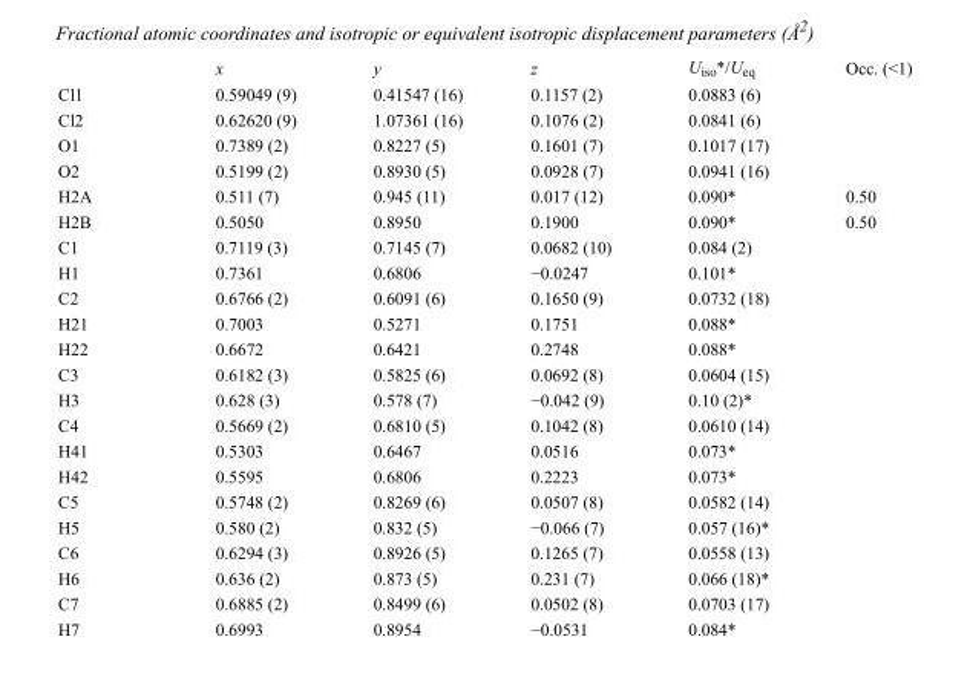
<table><thead><tr><td></td><td>x</td><td>y</td><td>z</td><td>U<sub>iso</sub>*/U<sub>eq</sub></td><td>Occ. (&lt;1)</td></tr></thead><tbody><tr><td>Cl1</td><td>0.59049 (9)</td><td>0.41547 (16)</td><td>0.1157 (2)</td><td>0.0883 (6)</td><td></td></tr><tr><td>Cl2</td><td>0.62620 (9)</td><td>1.07361 (16)</td><td>0.1076 (2)</td><td>0.0841 (6)</td><td></td></tr><tr><td>O1</td><td>0.7389 (2)</td><td>0.8227 (5)</td><td>0.1601 (7)</td><td>0.1017 (17)</td><td></td></tr><tr><td>O2</td><td>0.5199 (2)</td><td>0.8930 (5)</td><td>0.0928 (7)</td><td>0.0941 (16)</td><td></td></tr><tr><td>H2A</td><td>0.511 (7)</td><td>0.945 (11)</td><td>0.017 (12)</td><td>0.090*</td><td>0.50</td></tr><tr><td>H2B</td><td>0.5050</td><td>0.8950</td><td>0.1900</td><td>0.090*</td><td>0.50</td></tr><tr><td>C1</td><td>0.7119 (3)</td><td>0.7145 (7)</td><td>0.0682 (10)</td><td>0.084 (2)</td><td></td></tr><tr><td>H1</td><td>0.7361</td><td>0.6806</td><td>−0.0247</td><td>0.101*</td><td></td></tr><tr><td>C2</td><td>0.6766 (2)</td><td>0.6091 (6)</td><td>0.1650 (9)</td><td>0.0732 (18)</td><td></td></tr><tr><td>H21</td><td>0.7003</td><td>0.5271</td><td>0.1751</td><td>0.088*</td><td></td></tr><tr><td>H22</td><td>0.6672</td><td>0.6421</td><td>0.2748</td><td>0.088*</td><td></td></tr><tr><td>C3</td><td>0.6182 (3)</td><td>0.5825 (6)</td><td>0.0692 (8)</td><td>0.0604 (15)</td><td></td></tr><tr><td>H3</td><td>0.628 (3)</td><td>0.578 (7)</td><td>−0.042 (9)</td><td>0.10 (2)*</td><td></td></tr><tr><td>C4</td><td>0.5669 (2)</td><td>0.6810 (5)</td><td>0.1042 (8)</td><td>0.0610 (14)</td><td></td></tr><tr><td>H41</td><td>0.5303</td><td>0.6467</td><td>0.0516</td><td>0.073*</td><td></td></tr><tr><td>H42</td><td>0.5595</td><td>0.6806</td><td>0.2223</td><td>0.073*</td><td></td></tr><tr><td>C5</td><td>0.5748 (2)</td><td>0.8269 (6)</td><td>0.0507 (8)</td><td>0.0582 (14)</td><td></td></tr><tr><td>H5</td><td>0.580 (2)</td><td>0.832 (5)</td><td>−0.066 (7)</td><td>0.057 (16)*</td><td></td></tr><tr><td>C6</td><td>0.6294 (3)</td><td>0.8926 (5)</td><td>0.1265 (7)</td><td>0.0558 (13)</td><td></td></tr><tr><td>H6</td><td>0.636 (2)</td><td>0.873 (5)</td><td>0.231 (7)</td><td>0.066 (18)*</td><td></td></tr><tr><td>C7</td><td>0.6885 (2)</td><td>0.8499 (6)</td><td>0.0502 (8)</td><td>0.0703 (17)</td><td></td></tr><tr><td>H7</td><td>0.6993</td><td>0.8954</td><td>−0.0531</td><td>0.084*</td><td></td></tr></tbody></table>